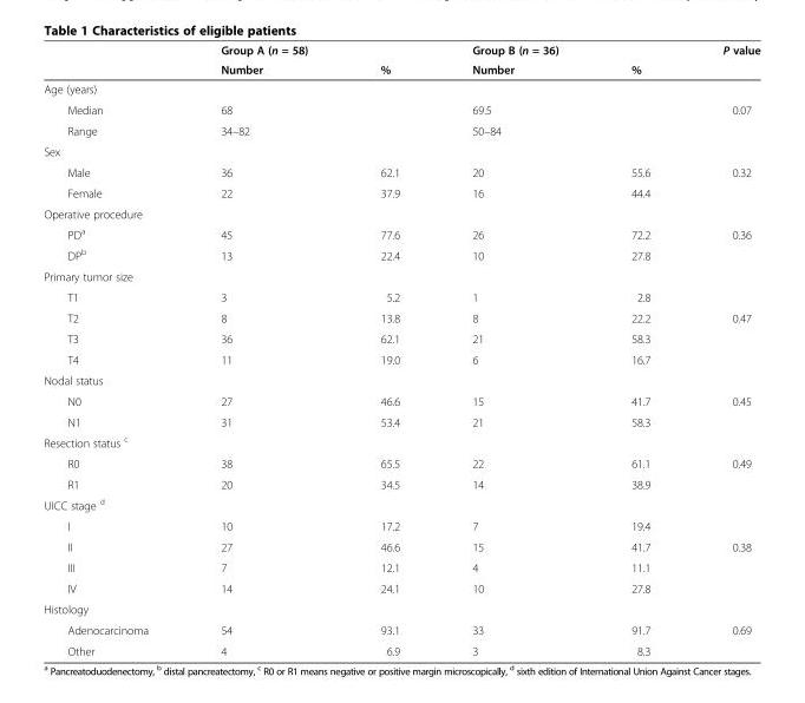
<table><thead><tr><td rowspan="2"></td><td rowspan="2">Group A (n = 58) Number</td><td rowspan="2">%</td><td rowspan="2">Group B (n = 36) Number</td><td rowspan="2">%</td><td rowspan="2">P value</td></tr><tr></tr></thead><tbody><tr><td colspan="6">Age (years)</td></tr><tr><td>Median</td><td>68</td><td></td><td>69.5</td><td></td><td>0.07</td></tr><tr><td>Range</td><td>34–82</td><td></td><td>50–84</td><td></td><td></td></tr><tr><td colspan="6">Sex</td></tr><tr><td>Male</td><td>36</td><td>62.1</td><td>20</td><td>55.6</td><td>0.32</td></tr><tr><td>Female</td><td>22</td><td>37.9</td><td>16</td><td>44.4</td><td></td></tr><tr><td colspan="6">Operative procedure</td></tr><tr><td>PD<sup>a</sup></td><td>45</td><td>77.6</td><td>26</td><td>72.2</td><td>0.36</td></tr><tr><td>DP<sup>b</sup></td><td>13</td><td>22.4</td><td>10</td><td>27.8</td><td></td></tr><tr><td colspan="6">Primary tumor size</td></tr><tr><td>T1</td><td>3</td><td>5.2</td><td>1</td><td>2.8</td><td></td></tr><tr><td>T2</td><td>8</td><td>13.8</td><td>8</td><td>22.2</td><td>0.47</td></tr><tr><td>T3</td><td>36</td><td>62.1</td><td>21</td><td>58.3</td><td></td></tr><tr><td>T4</td><td>11</td><td>19.0</td><td>6</td><td>16.7</td><td></td></tr><tr><td colspan="6">Nodal status</td></tr><tr><td>N0</td><td>27</td><td>46.6</td><td>15</td><td>41.7</td><td>0.45</td></tr><tr><td>N1</td><td>31</td><td>53.4</td><td>21</td><td>58.3</td><td></td></tr><tr><td colspan="6">Resection status <sup>c</sup></td></tr><tr><td>R0</td><td>38</td><td>65.5</td><td>22</td><td>61.1</td><td>0.49</td></tr><tr><td>R1</td><td>20</td><td>34.5</td><td>14</td><td>38.9</td><td></td></tr><tr><td colspan="6">UICC stage <sup>d</sup></td></tr><tr><td>I</td><td>10</td><td>17.2</td><td>7</td><td>19.4</td><td></td></tr><tr><td>II</td><td>27</td><td>46.6</td><td>15</td><td>41.7</td><td>0.38</td></tr><tr><td>III</td><td>7</td><td>12.1</td><td>4</td><td>11.1</td><td></td></tr><tr><td>IV</td><td>14</td><td>24.1</td><td>10</td><td>27.8</td><td></td></tr><tr><td colspan="6">Histology</td></tr><tr><td>Adenocarcinoma</td><td>54</td><td>93.1</td><td>33</td><td>91.7</td><td>0.69</td></tr><tr><td>Other</td><td>4</td><td>6.9</td><td>3</td><td>8.3</td><td></td></tr></tbody></table>